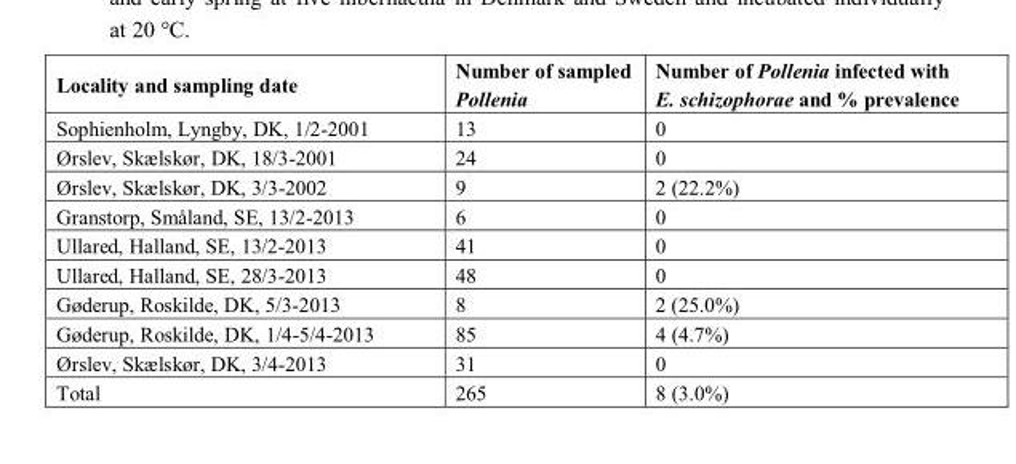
<table><thead><tr><td>Locality and sampling date</td><td>Number of sampled Pollenia</td><td>Number of Pollenia infected with E. schizophorae and % prevalence</td></tr></thead><tbody><tr><td>Sophienholm, Lyngby, DK, 1/2-2001</td><td>13</td><td>0</td></tr><tr><td>Ørslev, Skælskør, DK, 18/3-2001</td><td>24</td><td>0</td></tr><tr><td>Ørslev, Skælskør, DK, 3/3-2002</td><td>9</td><td>2 (22.2%)</td></tr><tr><td>Granstorp, Småland, SE, 13/2-2013</td><td>6</td><td>0</td></tr><tr><td>Ullared, Halland, SE, 13/2-2013</td><td>41</td><td>0</td></tr><tr><td>Ullared, Halland, SE, 28/3-2013</td><td>48</td><td>0</td></tr><tr><td>Gøderup, Roskilde, DK, 5/3-2013</td><td>8</td><td>2 (25.0%)</td></tr><tr><td>Gøderup, Roskilde, DK, 1/4-5/4-2013</td><td>85</td><td>4 (4.7%)</td></tr><tr><td>Ørslev, Skælskør, DK, 3/4-2013</td><td>31</td><td>0</td></tr><tr><td>Total</td><td>265</td><td>8 (3.0%)</td></tr></tbody></table>